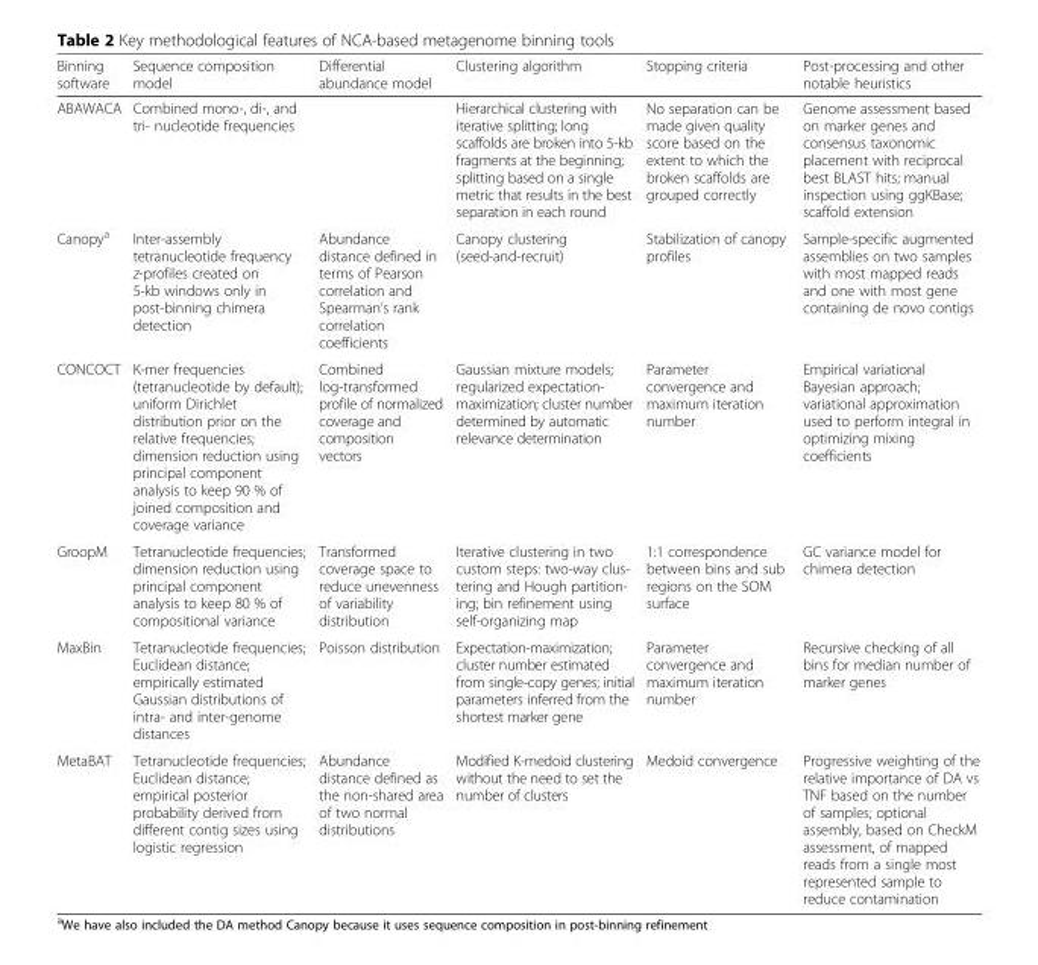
<table><thead><tr><td>Binning software</td><td>Sequence composition model</td><td>Differential abundance model</td><td>Clustering algorithm</td><td>Stopping criteria</td><td>Post-processing and other notable heuristics</td></tr></thead><tbody><tr><td>ABAWACA</td><td>Combined mono-, di-, and tri- nucleotide frequencies</td><td></td><td>Hierarchical clustering with iterative splitting; long scaffolds are broken into 5-kb fragments at the beginning; splitting based on a single metric that results in the best separation in each round</td><td>No separation can be made given quality score based on the extent to which the broken scaffolds are grouped correctly</td><td>Genome assessment based on marker genes and consensus taxonomic placement with reciprocal best BLAST hits; manual inspection using ggKBase; scaffold extension</td></tr><tr><td>Canopy<sup>a</sup></td><td>Inter-assembly tetranucleotide frequency z-profiles created on 5-kb windows only in post-binning chimera detection</td><td>Abundance distance defined in terms of Pearson correlation and Spearman’s rank correlation coefficients</td><td>Canopy clustering (seed-and-recruit)</td><td>Stabilization of canopy profiles</td><td>Sample-specific augmented assemblies on two samples with most mapped reads and one with most gene containing de novo contigs</td></tr><tr><td>CONCOCT</td><td>K-mer frequencies (tetranucleotide by default); uniform Dirichlet distribution prior on the relative frequencies; dimension reduction using principal component analysis to keep 90 % of joined composition and coverage variance</td><td>Combined log-transformed profile of normalized coverage and composition vectors</td><td>Gaussian mixture models; regularized expectation- maximization; cluster number determined by automatic relevance determination</td><td>Parameter convergence and maximum iteration number</td><td>Empirical variational Bayesian approach; variational approximation used to perform integral in optimizing mixing coefficients</td></tr><tr><td>GroopM</td><td>Tetranucleotide frequencies; dimension reduction using principal component analysis to keep 80 % of compositional variance</td><td>Transformed coverage space to reduce unevenness of variability distribution</td><td>Iterative clustering in two custom steps: two-way clus- tering and Hough partition- ing; bin refinement using self-organizing map</td><td>1:1 correspondence between bins and sub regions on the SOM surface</td><td>GC variance model for chimera detection</td></tr><tr><td>MaxBin</td><td>Tetranucleotide frequencies; Euclidean distance; empirically estimated Gaussian distributions of intra- and inter-genome distances</td><td>Poisson distribution</td><td>Expectation-maximization; cluster number estimated from single-copy genes; initial parameters inferred from the shortest marker gene</td><td>Parameter convergence and maximum iteration number</td><td>Recursive checking of all bins for median number of marker genes</td></tr><tr><td>MetaBAT</td><td>Tetranucleotide frequencies; Euclidean distance; empirical posterior probability derived from different contig sizes using logistic regression</td><td>Abundance distance defined as the non-shared area of two normal distributions</td><td>Modified K-medoid clustering without the need to set the number of clusters</td><td>Medoid convergence</td><td>Progressive weighting of the relative importance of DA vs TNF based on the number of samples; optional assembly, based on CheckM assessment, of mapped reads from a single most represented sample to reduce contamination</td></tr></tbody></table>